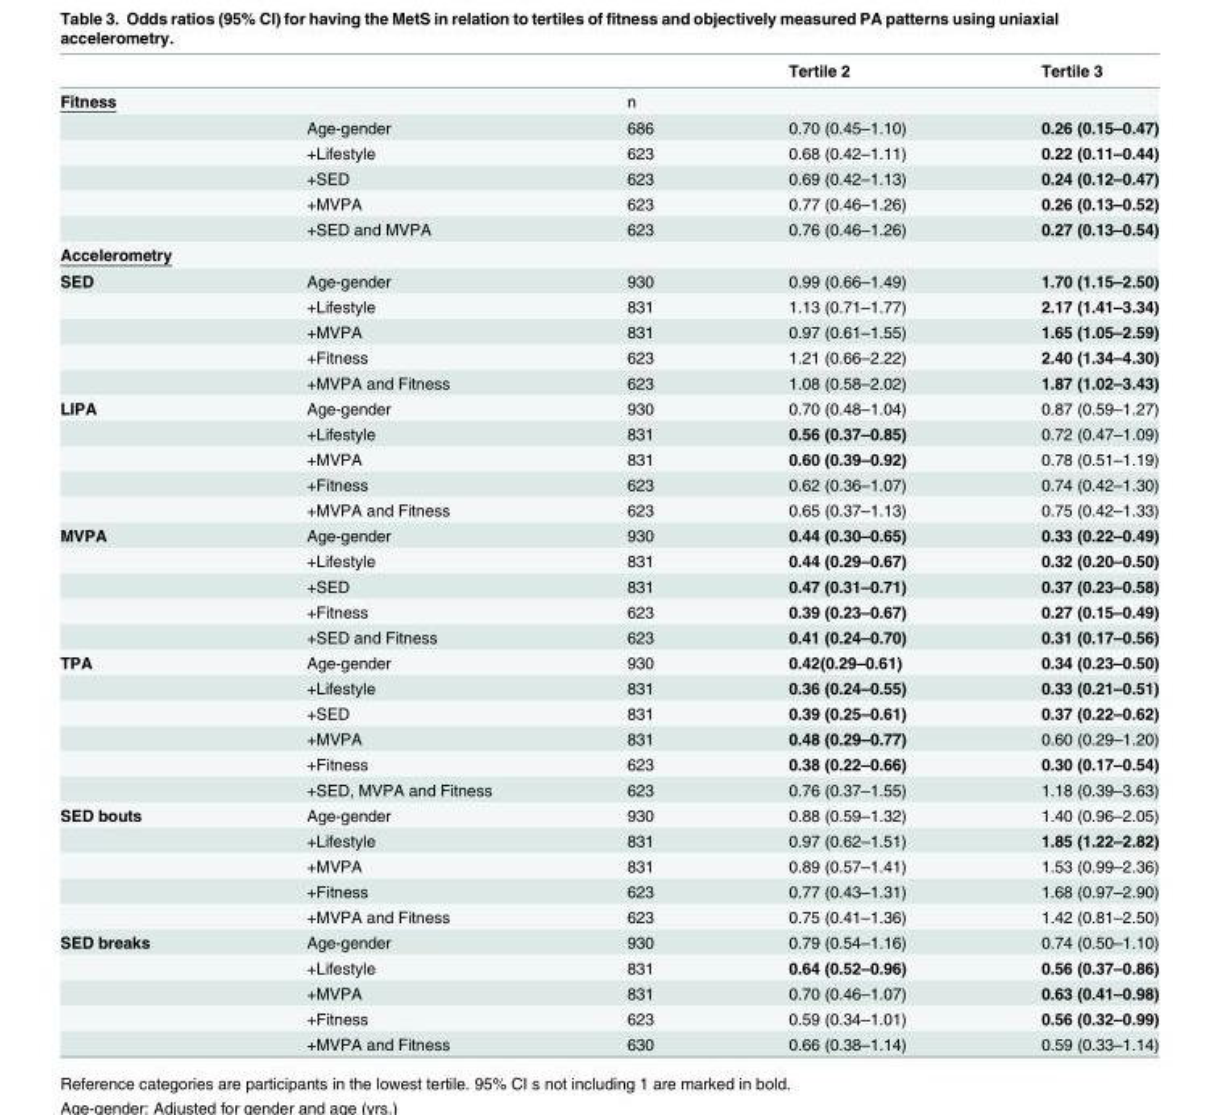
<table><thead><tr><td></td><td></td><td></td><td>Tertile 2</td><td>Tertile 3</td></tr></thead><tbody><tr><td rowspan="6">Fitness</td><td></td><td>n</td><td></td><td></td></tr><tr><td>Age-gender</td><td>686</td><td>0.70 (0.45–1.10)</td><td>0.26 (0.15–0.47)</td></tr><tr><td>+Lifestyle</td><td>623</td><td>0.68 (0.42–1.11)</td><td>0.22 (0.11–0.44)</td></tr><tr><td>+SED</td><td>623</td><td>0.69 (0.42–1.13)</td><td>0.24 (0.12–0.47)</td></tr><tr><td>+MVPA</td><td>623</td><td>0.77 (0.46–1.26)</td><td>0.26 (0.13–0.52)</td></tr><tr><td>+SED and MVPA</td><td>623</td><td>0.76 (0.46–1.26)</td><td>0.27 (0.13–0.54)</td></tr><tr><td colspan="5">Accelerometry</td></tr><tr><td rowspan="5">SED</td><td>Age-gender</td><td>930</td><td>0.99 (0.66–1.49)</td><td>1.70 (1.15–2.50)</td></tr><tr><td>+Lifestyle</td><td>831</td><td>1.13 (0.71–1.77)</td><td>2.17 (1.41–3.34)</td></tr><tr><td>+MVPA</td><td>831</td><td>0.97 (0.61–1.55)</td><td>1.65 (1.05–2.59)</td></tr><tr><td>+Fitness</td><td>623</td><td>1.21 (0.66–2.22)</td><td>2.40 (1.34–4.30)</td></tr><tr><td>+MVPA and Fitness</td><td>623</td><td>1.08 (0.58–2.02)</td><td>1.87 (1.02–3.43)</td></tr><tr><td rowspan="5">LIPA</td><td>Age-gender</td><td>930</td><td>0.70 (0.48–1.04)</td><td>0.87 (0.59–1.27)</td></tr><tr><td>+Lifestyle</td><td>831</td><td>0.56 (0.37–0.85)</td><td>0.72 (0.47–1.09)</td></tr><tr><td>+MVPA</td><td>831</td><td>0.60 (0.39–0.92)</td><td>0.78 (0.51–1.19)</td></tr><tr><td>+Fitness</td><td>623</td><td>0.62 (0.36–1.07)</td><td>0.74 (0.42–1.30)</td></tr><tr><td>+MVPA and Fitness</td><td>623</td><td>0.65 (0.37–1.13)</td><td>0.75 (0.42–1.33)</td></tr><tr><td rowspan="5">MVPA</td><td>Age-gender</td><td>930</td><td>0.44 (0.30–0.65)</td><td>0.33 (0.22–0.49)</td></tr><tr><td>+Lifestyle</td><td>831</td><td>0.44 (0.29–0.67)</td><td>0.32 (0.20–0.50)</td></tr><tr><td>+SED</td><td>831</td><td>0.47 (0.31–0.71)</td><td>0.37 (0.23–0.58)</td></tr><tr><td>+Fitness</td><td>623</td><td>0.39 (0.23–0.67)</td><td>0.27 (0.15–0.49)</td></tr><tr><td>+SED and Fitness</td><td>623</td><td>0.41 (0.24–0.70)</td><td>0.31 (0.17–0.56)</td></tr><tr><td rowspan="6">TPA</td><td>Age-gender</td><td>930</td><td>0.42(0.29–0.61)</td><td>0.34 (0.23–0.50)</td></tr><tr><td>+Lifestyle</td><td>831</td><td>0.36 (0.24–0.55)</td><td>0.33 (0.21–0.51)</td></tr><tr><td>+SED</td><td>831</td><td>0.39 (0.25–0.61)</td><td>0.37 (0.22–0.62)</td></tr><tr><td>+MVPA</td><td>831</td><td>0.48 (0.29–0.77)</td><td>0.60 (0.29–1.20)</td></tr><tr><td>+Fitness</td><td>623</td><td>0.38 (0.22–0.66)</td><td>0.30 (0.17–0.54)</td></tr><tr><td>+SED, MVPA and Fitness</td><td>623</td><td>0.76 (0.37–1.55)</td><td>1.18 (0.39–3.63)</td></tr><tr><td rowspan="5">SED bouts</td><td>Age-gender</td><td>930</td><td>0.88 (0.59–1.32)</td><td>1.40 (0.96–2.05)</td></tr><tr><td>+Lifestyle</td><td>831</td><td>0.97 (0.62–1.51)</td><td>1.85 (1.22–2.82)</td></tr><tr><td>+MVPA</td><td>831</td><td>0.89 (0.57–1.41)</td><td>1.53 (0.99–2.36)</td></tr><tr><td>+Fitness</td><td>623</td><td>0.77 (0.43–1.31)</td><td>1.68 (0.97–2.90)</td></tr><tr><td>+MVPA and Fitness</td><td>623</td><td>0.75 (0.41–1.36)</td><td>1.42 (0.81–2.50)</td></tr><tr><td rowspan="5">SED breaks</td><td>Age-gender</td><td>930</td><td>0.79 (0.54–1.16)</td><td>0.74 (0.50–1.10)</td></tr><tr><td>+Lifestyle</td><td>831</td><td>0.64 (0.52–0.96)</td><td>0.56 (0.37–0.86)</td></tr><tr><td>+MVPA</td><td>831</td><td>0.70 (0.46–1.07)</td><td>0.63 (0.41–0.98)</td></tr><tr><td>+Fitness</td><td>623</td><td>0.59 (0.34–1.01)</td><td>0.56 (0.32–0.99)</td></tr><tr><td>+MVPA and Fitness</td><td>630</td><td>0.66 (0.38–1.14)</td><td>0.59 (0.33–1.14)</td></tr></tbody></table>